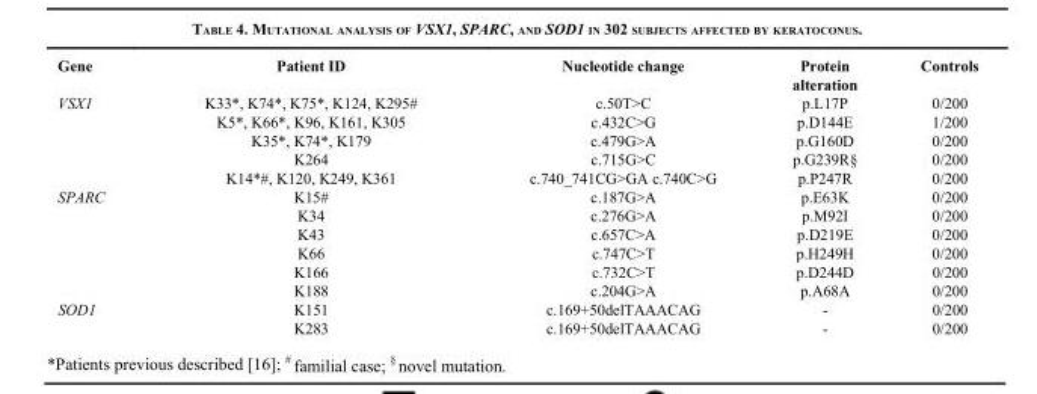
<table><thead><tr><td>Gene</td><td>Patient ID</td><td>Nucleotide change</td><td>Protein alteration</td><td>Controls</td></tr></thead><tbody><tr><td rowspan="5">VSX1</td><td>K33*, K74*, K75*, K124, K295#</td><td>c.50T&gt;C</td><td>p.L17P</td><td>0/200</td></tr><tr><td>K5*, K66*, K96, K161, K305</td><td>c.432C&gt;G</td><td>p.D144E</td><td>1/200</td></tr><tr><td>K35*, K74*, K179</td><td>c.479G&gt;A</td><td>p.G160D</td><td>0/200</td></tr><tr><td>K264</td><td>c.715G&gt;C</td><td>p.G239R§</td><td>0/200</td></tr><tr><td>K14*#, K120, K249, K361</td><td>c.740_741CG&gt;GA c.740C&gt;G</td><td>p.P247R</td><td>0/200</td></tr><tr><td rowspan="6">SPARC</td><td>K15#</td><td>c.187G&gt;A</td><td>p.E63K</td><td>0/200</td></tr><tr><td>K34</td><td>c.276G&gt;A</td><td>p.M92I</td><td>0/200</td></tr><tr><td>K43</td><td>c.657C&gt;A</td><td>p.D219E</td><td>0/200</td></tr><tr><td>K66</td><td>c.747C&gt;T</td><td>p.H249H</td><td>0/200</td></tr><tr><td>K166</td><td>c.732C&gt;T</td><td>p.D244D</td><td>0/200</td></tr><tr><td>K188</td><td>c.204G&gt;A</td><td>p.A68A</td><td>0/200</td></tr><tr><td rowspan="2">SOD1</td><td>K151</td><td>c.169+50delTAAACAG</td><td>-</td><td>0/200</td></tr><tr><td>K283</td><td>c.169+50delTAAACAG</td><td>-</td><td>0/200</td></tr></tbody></table>